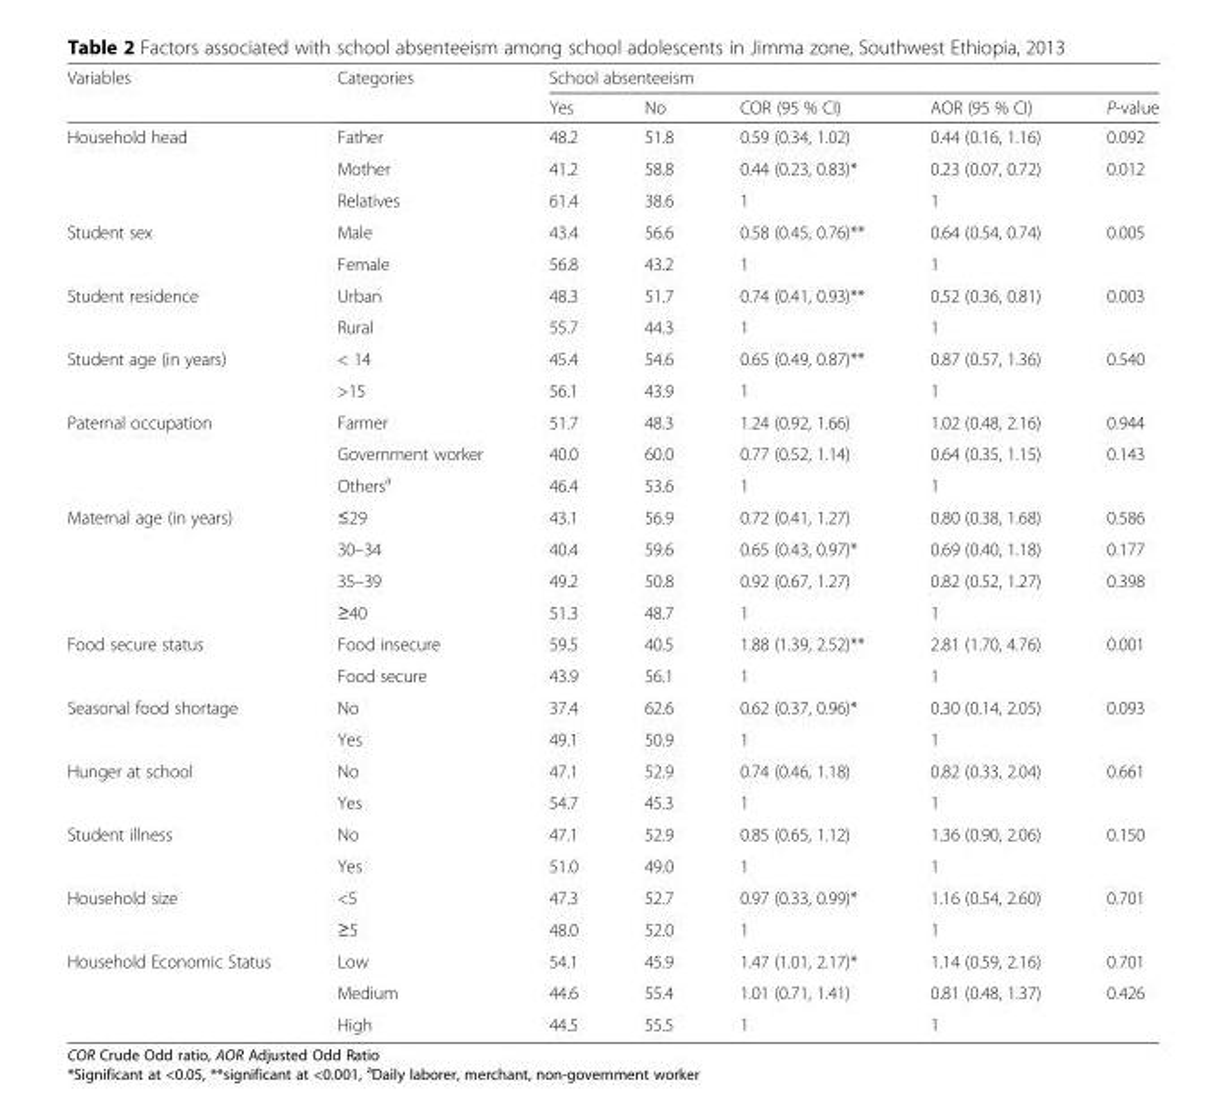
<table><thead><tr><td rowspan="2">Variables</td><td rowspan="2">Categories</td><td colspan="5">School absenteeism</td></tr><tr><td>Yes</td><td>No</td><td>COR (95 % CI)</td><td>AOR (95 % CI)</td><td>P-value</td></tr></thead><tbody><tr><td rowspan="3">Household head</td><td>Father</td><td>48.2</td><td>51.8</td><td>0.59 (0.34, 1.02)</td><td>0.44 (0.16, 1.16)</td><td>0.092</td></tr><tr><td>Mother</td><td>41.2</td><td>58.8</td><td>0.44 (0.23, 0.83)*</td><td>0.23 (0.07, 0.72)</td><td>0.012</td></tr><tr><td>Relatives</td><td>61.4</td><td>38.6</td><td>1</td><td>1</td><td></td></tr><tr><td rowspan="2">Student sex</td><td>Male</td><td>43.4</td><td>56.6</td><td>0.58 (0.45, 0.76)**</td><td>0.64 (0.54, 0.74)</td><td>0.005</td></tr><tr><td>Female</td><td>56.8</td><td>43.2</td><td>1</td><td>1</td><td></td></tr><tr><td rowspan="2">Student residence</td><td>Urban</td><td>48.3</td><td>51.7</td><td>0.74 (0.41, 0.93)**</td><td>0.52 (0.36, 0.81)</td><td>0.003</td></tr><tr><td>Rural</td><td>55.7</td><td>44.3</td><td>1</td><td>1</td><td></td></tr><tr><td rowspan="2">Student age (in years)</td><td>&lt; 14</td><td>45.4</td><td>54.6</td><td>0.65 (0.49, 0.87)**</td><td>0.87 (0.57, 1.36)</td><td>0.540</td></tr><tr><td>&gt;15</td><td>56.1</td><td>43.9</td><td>1</td><td>1</td><td></td></tr><tr><td rowspan="3">Paternal occupation</td><td>Farmer</td><td>51.7</td><td>48.3</td><td>1.24 (0.92, 1.66)</td><td>1.02 (0.48, 2.16)</td><td>0.944</td></tr><tr><td>Government worker</td><td>40.0</td><td>60.0</td><td>0.77 (0.52, 1.14)</td><td>0.64 (0.35, 1.15)</td><td>0.143</td></tr><tr><td>Others<sup>a</sup></td><td>46.4</td><td>53.6</td><td>1</td><td>1</td><td></td></tr><tr><td rowspan="4">Maternal age (in years)</td><td>≤29</td><td>43.1</td><td>56.9</td><td>0.72 (0.41, 1.27)</td><td>0.80 (0.38, 1.68)</td><td>0.586</td></tr><tr><td>30–34</td><td>40.4</td><td>59.6</td><td>0.65 (0.43, 0.97)*</td><td>0.69 (0.40, 1.18)</td><td>0.177</td></tr><tr><td>35–39</td><td>49.2</td><td>50.8</td><td>0.92 (0.67, 1.27)</td><td>0.82 (0.52, 1.27)</td><td>0.398</td></tr><tr><td>≥40</td><td>51.3</td><td>48.7</td><td>1</td><td>1</td><td></td></tr><tr><td rowspan="2">Food secure status</td><td>Food insecure</td><td>59.5</td><td>40.5</td><td>1.88 (1.39, 2.52)**</td><td>2.81 (1.70, 4.76)</td><td>0.001</td></tr><tr><td>Food secure</td><td>43.9</td><td>56.1</td><td>1</td><td>1</td><td></td></tr><tr><td rowspan="2">Seasonal food shortage</td><td>No</td><td>37.4</td><td>62.6</td><td>0.62 (0.37, 0.96)*</td><td>0.30 (0.14, 2.05)</td><td>0.093</td></tr><tr><td>Yes</td><td>49.1</td><td>50.9</td><td>1</td><td>1</td><td></td></tr><tr><td rowspan="2">Hunger at school</td><td>No</td><td>47.1</td><td>52.9</td><td>0.74 (0.46, 1.18)</td><td>0.82 (0.33, 2.04)</td><td>0.661</td></tr><tr><td>Yes</td><td>54.7</td><td>45.3</td><td>1</td><td>1</td><td></td></tr><tr><td rowspan="2">Student illness</td><td>No</td><td>47.1</td><td>52.9</td><td>0.85 (0.65, 1.12)</td><td>1.36 (0.90, 2.06)</td><td>0.150</td></tr><tr><td>Yes</td><td>51.0</td><td>49.0</td><td>1</td><td>1</td><td></td></tr><tr><td rowspan="2">Household size</td><td>&lt;5</td><td>47.3</td><td>52.7</td><td>0.97 (0.33, 0.99)*</td><td>1.16 (0.54, 2.60)</td><td>0.701</td></tr><tr><td>≥5</td><td>48.0</td><td>52.0</td><td>1</td><td>1</td><td></td></tr><tr><td rowspan="3">Household Economic Status</td><td>Low</td><td>54.1</td><td>45.9</td><td>1.47 (1.01, 2.17)*</td><td>1.14 (0.59, 2.16)</td><td>0.701</td></tr><tr><td>Medium</td><td>44.6</td><td>55.4</td><td>1.01 (0.71, 1.41)</td><td>0.81 (0.48, 1.37)</td><td>0.426</td></tr><tr><td>High</td><td>44.5</td><td>55.5</td><td>1</td><td>1</td><td></td></tr></tbody></table>